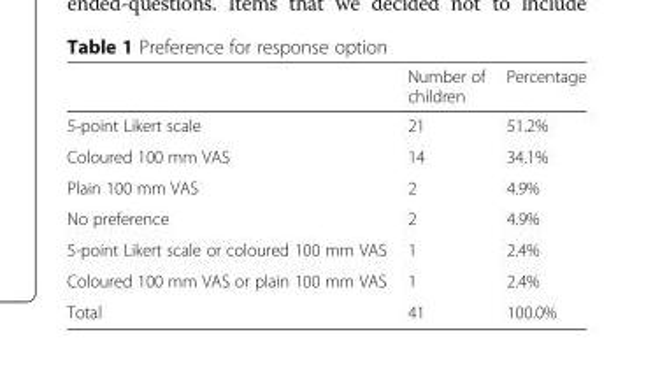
<table><thead><tr><td></td><td>Number of children</td><td>Percentage</td></tr></thead><tbody><tr><td>5-point Likert scale</td><td>21</td><td>51.2%</td></tr><tr><td>Coloured 100 mm VAS</td><td>14</td><td>34.1%</td></tr><tr><td>Plain 100 mm VAS</td><td>2</td><td>4.9%</td></tr><tr><td>No preference</td><td>2</td><td>4.9%</td></tr><tr><td>5-point Likert scale or coloured 100 mm VAS</td><td>1</td><td>2.4%</td></tr><tr><td>Coloured 100 mm VAS or plain 100 mm VAS</td><td>1</td><td>2.4%</td></tr><tr><td>Total</td><td>41</td><td>100.0%</td></tr></tbody></table>